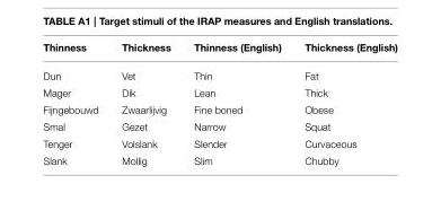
<table><thead><tr><td>Thinness</td><td>Thickness</td><td>Thinness (English)</td><td>Thickness (English)</td></tr></thead><tbody><tr><td>Dun</td><td>Vet</td><td>Thin</td><td>Fat</td></tr><tr><td>Mager</td><td>Dik</td><td>Lean</td><td>Thick</td></tr><tr><td>Fijngebouwd</td><td>Zwaarlijvig</td><td>Fine boned</td><td>Obese</td></tr><tr><td>Smal</td><td>Gezet</td><td>Narrow</td><td>Squat</td></tr><tr><td>Tenger</td><td>Volslank</td><td>Slender</td><td>Curvaceous</td></tr><tr><td>Slank</td><td>Mollig</td><td>Slim</td><td>Chubby</td></tr></tbody></table>